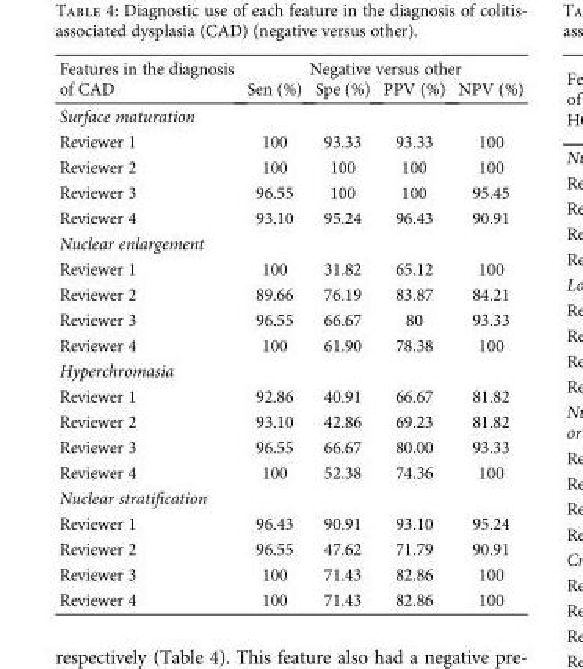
<table><thead><tr><td rowspan="2">Features in the diagnosis of CAD</td><td colspan="4">Negative versus other</td></tr><tr><td>Sen (%)</td><td>Spe (%)</td><td>PPV (%)</td><td>NPV (%)</td></tr></thead><tbody><tr><td colspan="5">Surface maturation</td></tr><tr><td>Reviewer 1</td><td>100</td><td>93.33</td><td>93.33</td><td>100</td></tr><tr><td>Reviewer 2</td><td>100</td><td>100</td><td>100</td><td>100</td></tr><tr><td>Reviewer 3</td><td>96.55</td><td>100</td><td>100</td><td>95.45</td></tr><tr><td>Reviewer 4</td><td>93.10</td><td>95.24</td><td>96.43</td><td>90.91</td></tr><tr><td colspan="5">Nuclear enlargement</td></tr><tr><td>Reviewer 1</td><td>100</td><td>31.82</td><td>65.12</td><td>100</td></tr><tr><td>Reviewer 2</td><td>89.66</td><td>76.19</td><td>83.87</td><td>84.21</td></tr><tr><td>Reviewer 3</td><td>96.55</td><td>66.67</td><td>80</td><td>93.33</td></tr><tr><td>Reviewer 4</td><td>100</td><td>61.90</td><td>78.38</td><td>100</td></tr><tr><td colspan="5">Hyperchromasia</td></tr><tr><td>Reviewer 1</td><td>92.86</td><td>40.91</td><td>66.67</td><td>81.82</td></tr><tr><td>Reviewer 2</td><td>93.10</td><td>42.86</td><td>69.23</td><td>81.82</td></tr><tr><td>Reviewer 3</td><td>96.55</td><td>66.67</td><td>80.00</td><td>93.33</td></tr><tr><td>Reviewer 4</td><td>100</td><td>52.38</td><td>74.36</td><td>100</td></tr><tr><td colspan="5">Nuclear stratification</td></tr><tr><td>Reviewer 1</td><td>96.43</td><td>90.91</td><td>93.10</td><td>95.24</td></tr><tr><td>Reviewer 2</td><td>96.55</td><td>47.62</td><td>71.79</td><td>90.91</td></tr><tr><td>Reviewer 3</td><td>100</td><td>71.43</td><td>82.86</td><td>100</td></tr><tr><td>Reviewer 4</td><td>100</td><td>71.43</td><td>82.86</td><td>100</td></tr></tbody></table>